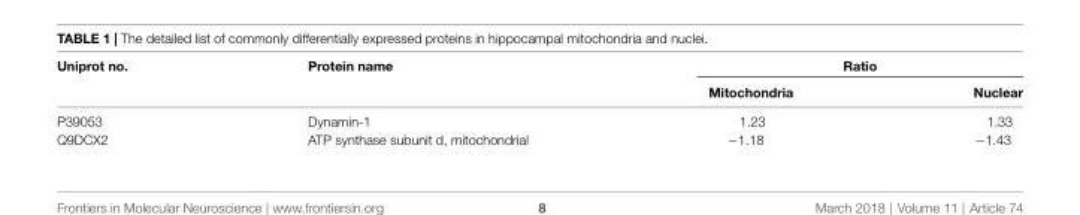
<table><thead><tr><td rowspan="2">Uniprot no.</td><td rowspan="2">Protein name</td><td colspan="2">Ratio</td></tr><tr><td>Mitochondria</td><td>Nuclear</td></tr></thead><tbody><tr><td>P39053</td><td>Dynamin-1</td><td>1.23</td><td>1.33</td></tr><tr><td>Q9DCX2</td><td>ATP synthase subunit d, mitochondrial</td><td>−1.18</td><td>−1.43</td></tr></tbody></table>